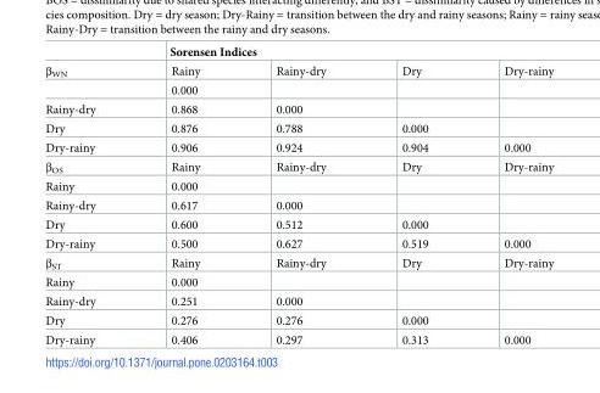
<table><thead><tr><td rowspan="2">β<sub>WN</sub></td><td colspan="4">Sorensen Indices</td></tr><tr><td>Rainy</td><td>Rainy-dry</td><td>Dry</td><td>Dry-rainy</td></tr></thead><tbody><tr><td></td><td>0.000</td><td></td><td></td><td></td></tr><tr><td>Rainy-dry</td><td>0.868</td><td>0.000</td><td></td><td></td></tr><tr><td>Dry</td><td>0.876</td><td>0.788</td><td>0.000</td><td></td></tr><tr><td>Dry-rainy</td><td>0.906</td><td>0.924</td><td>0.904</td><td>0.000</td></tr><tr><td>β<sub>OS</sub></td><td>Rainy</td><td>Rainy-dry</td><td>Dry</td><td>Dry-rainy</td></tr><tr><td>Rainy</td><td>0.000</td><td></td><td></td><td></td></tr><tr><td>Rainy-dry</td><td>0.617</td><td>0.000</td><td></td><td></td></tr><tr><td>Dry</td><td>0.600</td><td>0.512</td><td>0.000</td><td></td></tr><tr><td>Dry-rainy</td><td>0.500</td><td>0.627</td><td>0.519</td><td>0.000</td></tr><tr><td>β<sub>ST</sub></td><td>Rainy</td><td>Rainy-dry</td><td>Dry</td><td>Dry-rainy</td></tr><tr><td>Rainy</td><td>0.000</td><td></td><td></td><td></td></tr><tr><td>Rainy-dry</td><td>0.251</td><td>0.000</td><td></td><td></td></tr><tr><td>Dry</td><td>0.276</td><td>0.276</td><td>0.000</td><td></td></tr><tr><td>Dry-rainy</td><td>0.406</td><td>0.297</td><td>0.313</td><td>0.000</td></tr></tbody></table>